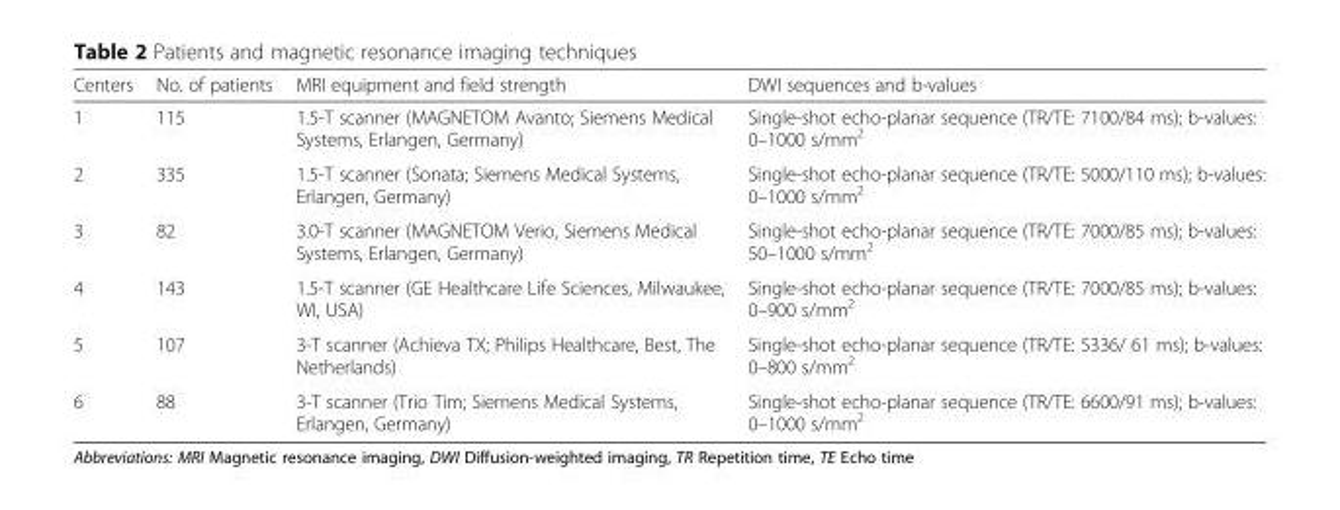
<table><thead><tr><td>Centers</td><td>No. of patients</td><td>MRI equipment and field strength</td><td>DWI sequences and b-values</td></tr></thead><tbody><tr><td>1</td><td>115</td><td>1.5-T scanner (MAGNETOM Avanto; Siemens Medical Systems, Erlangen, Germany)</td><td>Single-shot echo-planar sequence (TR/TE: 7100/84 ms); b-values: 0–1000 s/mm<sup>2</sup></td></tr><tr><td>2</td><td>335</td><td>1.5-T scanner (Sonata; Siemens Medical Systems, Erlangen, Germany)</td><td>Single-shot echo-planar sequence (TR/TE: 5000/110 ms); b-values: 0–1000 s/mm<sup>2</sup></td></tr><tr><td>3</td><td>82</td><td>3.0-T scanner (MAGNETOM Verio, Siemens Medical Systems, Erlangen, Germany)</td><td>Single-shot echo-planar sequence (TR/TE: 7000/85 ms); b-values: 50–1000 s/mm<sup>2</sup></td></tr><tr><td>4</td><td>143</td><td>1.5-T scanner (GE Healthcare Life Sciences, Milwaukee, WI, USA)</td><td>Single-shot echo-planar sequence (TR/TE: 7000/85 ms); b-values: 0–900 s/mm<sup>2</sup></td></tr><tr><td>5</td><td>107</td><td>3-T scanner (Achieva TX; Philips Healthcare, Best, The Netherlands)</td><td>Single-shot echo-planar sequence (TR/TE: 5336/ 61 ms); b-values: 0–800 s/mm<sup>2</sup></td></tr><tr><td>6</td><td>88</td><td>3-T scanner (Trio Tim; Siemens Medical Systems, Erlangen, Germany)</td><td>Single-shot echo-planar sequence (TR/TE: 6600/91 ms); b-values: 0–1000 s/mm<sup>2</sup></td></tr></tbody></table>